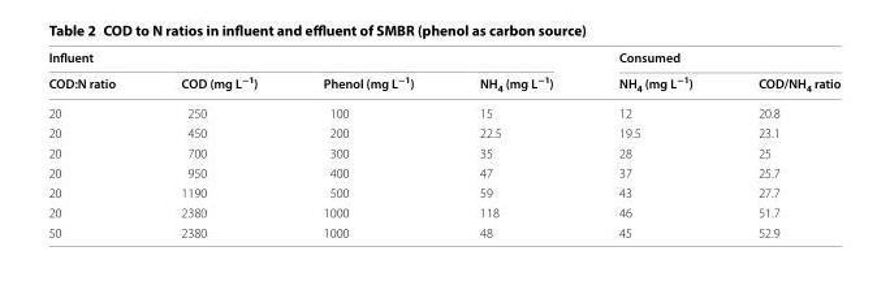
<table><thead><tr><td colspan="4">Influent</td><td colspan="2">Consumed</td></tr><tr><td>COD:N ratio</td><td>COD (mg L<sup>−1</sup>)</td><td>Phenol (mg L<sup>−1</sup>)</td><td>NH<sub>4</sub> (mg L<sup>−1</sup>)</td><td>NH<sub>4</sub> (mg L<sup>−1</sup>)</td><td>COD/NH<sub>4</sub> ratio</td></tr></thead><tbody><tr><td>20</td><td>250</td><td>100</td><td>15</td><td>12</td><td>20.8</td></tr><tr><td>20</td><td>450</td><td>200</td><td>22.5</td><td>19.5</td><td>23.1</td></tr><tr><td>20</td><td>700</td><td>300</td><td>35</td><td>28</td><td>25</td></tr><tr><td>20</td><td>950</td><td>400</td><td>47</td><td>37</td><td>25.7</td></tr><tr><td>20</td><td>1190</td><td>500</td><td>59</td><td>43</td><td>27.7</td></tr><tr><td>20</td><td>2380</td><td>1000</td><td>118</td><td>46</td><td>51.7</td></tr><tr><td>50</td><td>2380</td><td>1000</td><td>48</td><td>45</td><td>52.9</td></tr></tbody></table>